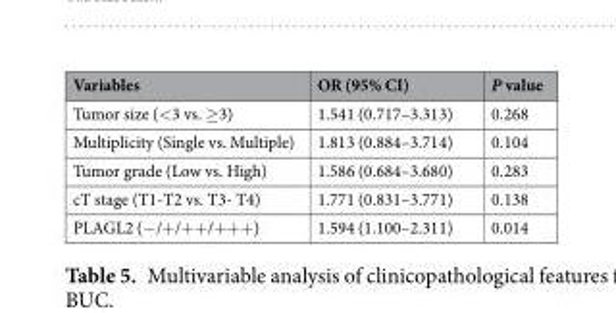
<table><thead><tr><td>Variables</td><td>OR (95% CI)</td><td>P value</td></tr></thead><tbody><tr><td>Tumor size (&lt;3 vs. ≥3)</td><td>1.541 (0.717–3.313)</td><td>0.268</td></tr><tr><td>Multiplicity (Single vs. Multiple)</td><td>1.813 (0.884–3.714)</td><td>0.104</td></tr><tr><td>Tumor grade (Low vs. High)</td><td>1.586 (0.684–3.680)</td><td>0.283</td></tr><tr><td>cT stage (T1-T2 vs. T3- T4)</td><td>1.771 (0.831–3.771)</td><td>0.138</td></tr><tr><td>PLAGL2 (−/+/++/+++)</td><td>1.594 (1.100–2.311)</td><td>0.014</td></tr></tbody></table>